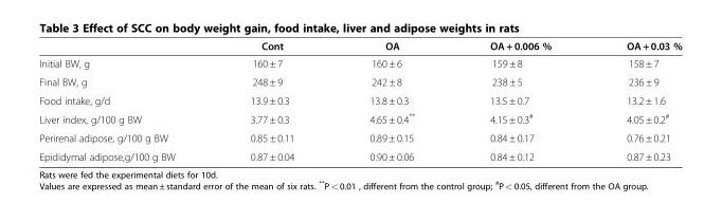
<table><thead><tr><td></td><td>Cont</td><td>OA</td><td>OA + 0.006 %</td><td>OA + 0.03 %</td></tr></thead><tbody><tr><td>Initial BW, g</td><td>160 ± 7</td><td>160 ± 6</td><td>159 ± 8</td><td>158 ± 7</td></tr><tr><td>Final BW, g</td><td>248 ± 9</td><td>242 ± 8</td><td>238 ± 5</td><td>236 ± 9</td></tr><tr><td>Food intake, g/d</td><td>13.9 ± 0.3</td><td>13.8 ± 0.3</td><td>13.5 ± 0.7</td><td>13.2 ± 1.6</td></tr><tr><td>Liver index, g/100 g BW</td><td>3.77 ± 0.3</td><td>4.65 ± 0.4**</td><td>4.15 ± 0.3<sup>#</sup></td><td>4.05 ± 0.2<sup>#</sup></td></tr><tr><td>Perirenal adipose, g/100 g BW</td><td>0.85 ± 0.11</td><td>0.89 ± 0.15</td><td>0.84 ± 0.17</td><td>0.76 ± 0.21</td></tr><tr><td>Epididymal adipose,g/100 g BW</td><td>0.87 ± 0.04</td><td>0.90 ± 0.06</td><td>0.84 ± 0.12</td><td>0.87 ± 0.23</td></tr></tbody></table>